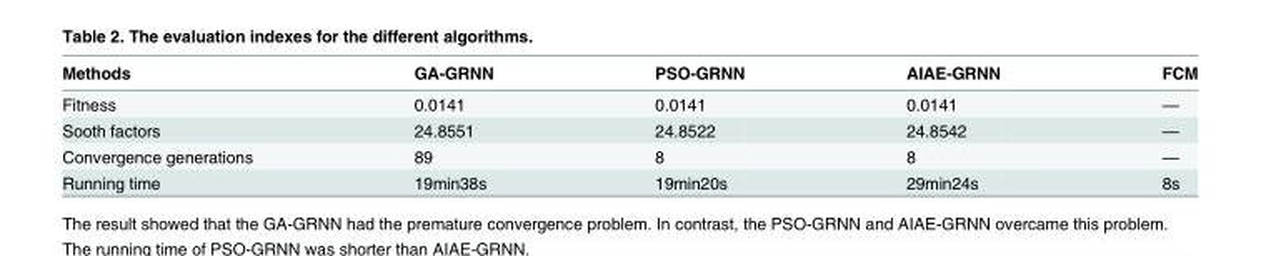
<table><thead><tr><td>Methods</td><td>GA-GRNN</td><td>PSO-GRNN</td><td>AIAE-GRNN</td><td>FCM</td></tr></thead><tbody><tr><td>Fitness</td><td>0.0141</td><td>0.0141</td><td>0.0141</td><td>—</td></tr><tr><td>Sooth factors</td><td>24.8551</td><td>24.8522</td><td>24.8542</td><td>—</td></tr><tr><td>Convergence generations</td><td>89</td><td>8</td><td>8</td><td>—</td></tr><tr><td>Running time</td><td>19min38s</td><td>19min20s</td><td>29min24s</td><td>8s</td></tr></tbody></table>